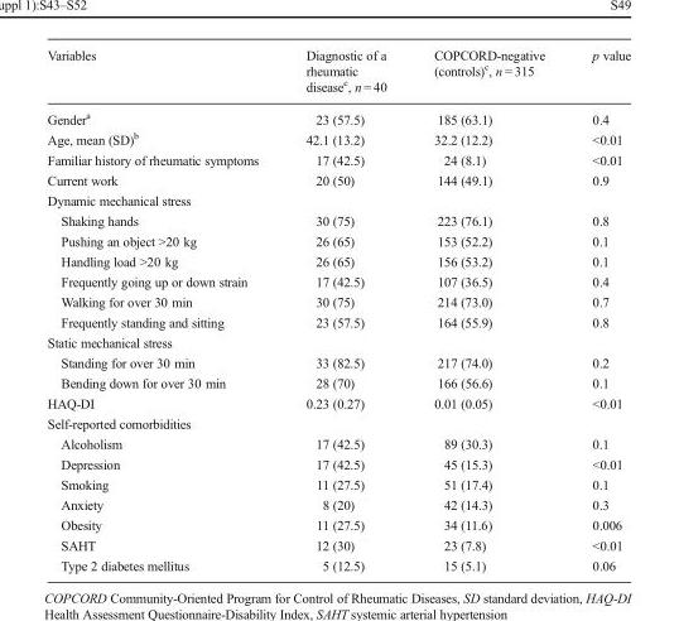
<table><thead><tr><td>Variables</td><td>Diagnostic of a rheumatic disease<sup>c</sup>, n = 40</td><td>COPCORD-negative (controls)<sup>c</sup>, n = 315</td><td>p value</td></tr></thead><tbody><tr><td>Gender<sup>a</sup></td><td>23 (57.5)</td><td>185 (63.1)</td><td>0.4</td></tr><tr><td>Age, mean (SD)<sup>b</sup></td><td>42.1 (13.2)</td><td>32.2 (12.2)</td><td>&lt;0.01</td></tr><tr><td>Familiar history of rheumatic symptoms</td><td>17 (42.5)</td><td>24 (8.1)</td><td>&lt;0.01</td></tr><tr><td>Current work</td><td>20 (50)</td><td>144 (49.1)</td><td>0.9</td></tr><tr><td colspan="4">Dynamic mechanical stress</td></tr><tr><td>Shaking hands</td><td>30 (75)</td><td>223 (76.1)</td><td>0.8</td></tr><tr><td>Pushing an object &gt;20 kg</td><td>26 (65)</td><td>153 (52.2)</td><td>0.1</td></tr><tr><td>Handling load &gt;20 kg</td><td>26 (65)</td><td>156 (53.2)</td><td>0.1</td></tr><tr><td>Frequently going up or down strain</td><td>17 (42.5)</td><td>107 (36.5)</td><td>0.4</td></tr><tr><td>Walking for over 30 min</td><td>30 (75)</td><td>214 (73.0)</td><td>0.7</td></tr><tr><td>Frequently standing and sitting</td><td>23 (57.5)</td><td>164 (55.9)</td><td>0.8</td></tr><tr><td colspan="4">Static mechanical stress</td></tr><tr><td>Standing for over 30 min</td><td>33 (82.5)</td><td>217 (74.0)</td><td>0.2</td></tr><tr><td>Bending down for over 30 min</td><td>28 (70)</td><td>166 (56.6)</td><td>0.1</td></tr><tr><td>HAQ-DI</td><td>0.23 (0.27)</td><td>0.01 (0.05)</td><td>&lt;0.01</td></tr><tr><td colspan="4">Self-reported comorbidities</td></tr><tr><td>Alcoholism</td><td>17 (42.5)</td><td>89 (30.3)</td><td>0.1</td></tr><tr><td>Depression</td><td>17 (42.5)</td><td>45 (15.3)</td><td>&lt;0.01</td></tr><tr><td>Smoking</td><td>11 (27.5)</td><td>51 (17.4)</td><td>0.1</td></tr><tr><td>Anxiety</td><td>8 (20)</td><td>42 (14.3)</td><td>0.3</td></tr><tr><td>Obesity</td><td>11 (27.5)</td><td>34 (11.6)</td><td>0.006</td></tr><tr><td>SAHT</td><td>12 (30)</td><td>23 (7.8)</td><td>&lt;0.01</td></tr><tr><td>Type 2 diabetes mellitus</td><td>5 (12.5)</td><td>15 (5.1)</td><td>0.06</td></tr></tbody></table>